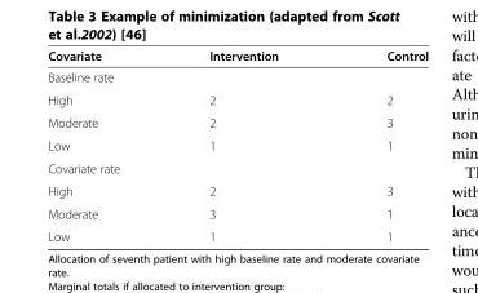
<table><thead><tr><td>Covariate</td><td>Intervention</td><td>Control</td></tr></thead><tbody><tr><td colspan="3">Baseline rate</td></tr><tr><td>High</td><td>2</td><td>2</td></tr><tr><td>Moderate</td><td>2</td><td>3</td></tr><tr><td>Low</td><td>1</td><td>1</td></tr><tr><td colspan="3">Covariate rate</td></tr><tr><td>High</td><td>2</td><td>3</td></tr><tr><td>Moderate</td><td>3</td><td>1</td></tr><tr><td>Low</td><td>1</td><td>1</td></tr></tbody></table>